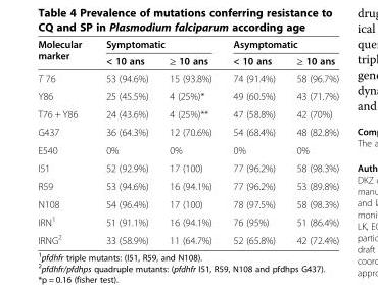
<table><thead><tr><td rowspan="2">Molecular marker</td><td colspan="2">Symptomatic</td><td colspan="2">Asymptomatic</td></tr><tr><td>&lt; 10 ans</td><td>≥ 10 ans</td><td>&lt; 10 ans</td><td>≥ 10 ans</td></tr></thead><tbody><tr><td>T 76</td><td>53 (94.6%)</td><td>15 (93.8%)</td><td>74 (91.4%)</td><td>58 (96.7%)</td></tr><tr><td>Y86</td><td>25 (45.5%)</td><td>4 (25%)*</td><td>49 (60.5%)</td><td>43 (71.7%)</td></tr><tr><td>T76 + Y86</td><td>24 (43.6%)</td><td>4 (25%)**</td><td>47 (58.8%)</td><td>42 (70%)</td></tr><tr><td>G437</td><td>36 (64.3%)</td><td>12 (70.6%)</td><td>54 (68.4%)</td><td>48 (82.8%)</td></tr><tr><td>E540</td><td>0%</td><td>0%</td><td>0%</td><td>0%</td></tr><tr><td>I51</td><td>52 (92.9%)</td><td>17 (100)</td><td>77 (96.2%)</td><td>58 (98.3%)</td></tr><tr><td>R59</td><td>53 (94.6%)</td><td>16 (94.1%)</td><td>77 (96.2%)</td><td>53 (89.8%)</td></tr><tr><td>N108</td><td>54 (96.4%)</td><td>17 (100)</td><td>78 (97.5%)</td><td>58 (98.3%)</td></tr><tr><td>IRN<sup>1</sup></td><td>51 (91.1%)</td><td>16 (94.1%)</td><td>76 (95%)</td><td>51 (86.4%)</td></tr><tr><td>IRNG<sup>2</sup></td><td>33 (58.9%)</td><td>11 (64.7%)</td><td>52 (65.8%)</td><td>42 (72.4%)</td></tr></tbody></table>